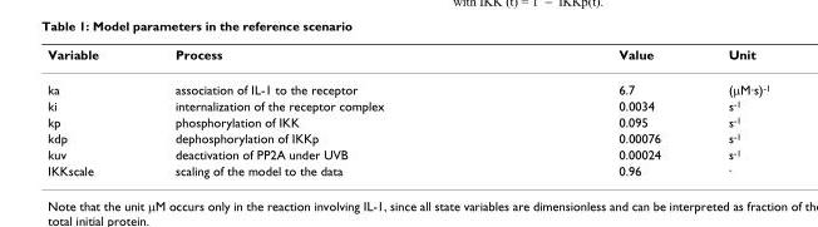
<table><thead><tr><td>Variable</td><td>Process</td><td>Value</td><td>Unit</td></tr></thead><tbody><tr><td>ka</td><td>association of IL-1 to the receptor</td><td>6.7</td><td>(μM·s)<sup>-1</sup></td></tr><tr><td>ki</td><td>internalization of the receptor complex</td><td>0.0034</td><td>s<sup>-1</sup></td></tr><tr><td>kp</td><td>phosphorylation of IKK</td><td>0.095</td><td>s<sup>-1</sup></td></tr><tr><td>kdp</td><td>dephosphorylation of IKKp</td><td>0.00076</td><td>s<sup>-1</sup></td></tr><tr><td>kuv</td><td>deactivation of PP2A under UVB</td><td>0.00024</td><td>s<sup>-1</sup></td></tr><tr><td>IKKscale</td><td>scaling of the model to the data</td><td>0.96</td><td><sup>-</sup></td></tr></tbody></table>